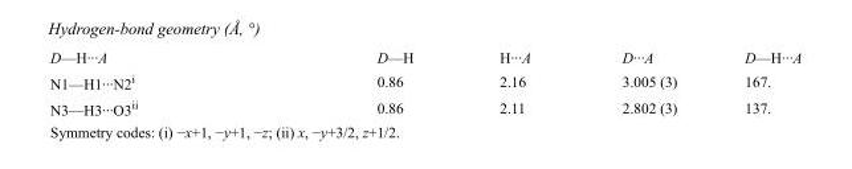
<table><tbody><tr><td>D—H···A</td><td>D—H</td><td>H···A</td><td>D···A</td><td>D—H···A</td></tr><tr><td>N1—H1···N2<sup>i</sup></td><td>0.86</td><td>2.16</td><td>3.005 (3)</td><td>167.</td></tr><tr><td>N3—H3···O3<sup>ii</sup></td><td>0.86</td><td>2.11</td><td>2.802 (3)</td><td>137.</td></tr></tbody></table>